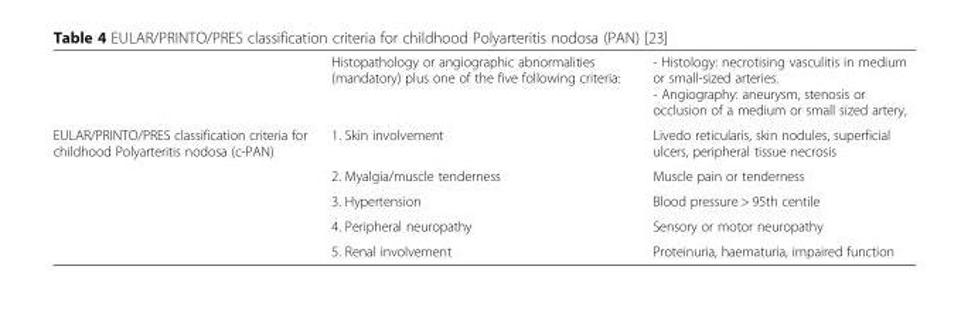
<table><thead><tr><td></td><td>Histopathology or angiographic abnormalities (mandatory) plus one of the five following criteria:</td><td>- Histology: necrotising vasculitis in medium or small-sized arteries. - Angiography: aneurysm, stenosis or occlusion of a medium or small sized artery,</td></tr></thead><tbody><tr><td rowspan="5">EULAR/PRINTO/PRES classification criteria for childhood Polyarteritis nodosa (c-PAN)</td><td>1. Skin involvement</td><td>Livedo reticularis, skin nodules, superficial ulcers, peripheral tissue necrosis</td></tr><tr><td>2. Myalgia/muscle tenderness</td><td>Muscle pain or tenderness</td></tr><tr><td>3. Hypertension</td><td>Blood pressure &gt; 95th centile</td></tr><tr><td>4. Peripheral neuropathy</td><td>Sensory or motor neuropathy</td></tr><tr><td>5. Renal involvement</td><td>Proteinuria, haematuria, impaired function</td></tr></tbody></table>